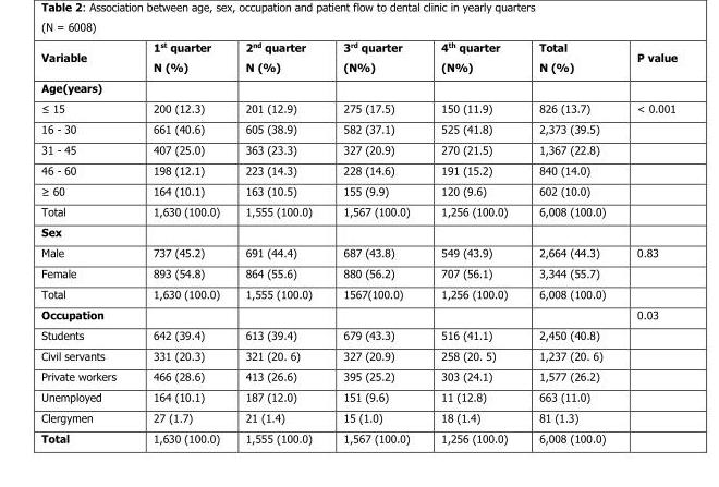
<table><thead><tr><td>Variable</td><td>1<sup>st</sup> quarter N (%)</td><td>2<sup>nd</sup> quarter N (%)</td><td>3<sup>rd</sup> quarter (N%)</td><td>4<sup>th</sup> quarter (N%)</td><td>Total N (%)</td><td>P value</td></tr></thead><tbody><tr><td colspan="7">Age(years)</td></tr><tr><td>≤ 15</td><td>200 (12.3)</td><td>201 (12.9)</td><td>275 (17.5)</td><td>150 (11.9)</td><td>826 (13.7)</td><td>&lt; 0.001</td></tr><tr><td>16 - 30</td><td>661 (40.6)</td><td>605 (38.9)</td><td>582 (37.1)</td><td>525 (41.8)</td><td>2,373 (39.5)</td><td></td></tr><tr><td>31 - 45</td><td>407 (25.0)</td><td>363 (23.3)</td><td>327 (20.9)</td><td>270 (21.5)</td><td>1,367 (22.8)</td><td></td></tr><tr><td>46 - 60</td><td>198 (12.1)</td><td>223 (14.3)</td><td>228 (14.6)</td><td>191 (15.2)</td><td>840 (14.0)</td><td></td></tr><tr><td>≥ 60</td><td>164 (10.1)</td><td>163 (10.5)</td><td>155 (9.9)</td><td>120 (9.6)</td><td>602 (10.0)</td><td></td></tr><tr><td>Total</td><td>1,630 (100.0)</td><td>1,555 (100.0)</td><td>1,567 (100.0)</td><td>1,256 (100.0)</td><td>6,008 (100.0)</td><td></td></tr><tr><td colspan="7">Sex</td></tr><tr><td>Male</td><td>737 (45.2)</td><td>691 (44.4)</td><td>687 (43.8)</td><td>549 (43.9)</td><td>2,664 (44.3)</td><td>0.83</td></tr><tr><td>Female</td><td>893 (54.8)</td><td>864 (55.6)</td><td>880 (56.2)</td><td>707 (56.1)</td><td>3,344 (55.7)</td><td></td></tr><tr><td>Total</td><td>1,630 (100.0)</td><td>1,555 (100.0)</td><td>1567(100.0)</td><td>1,256 (100.0)</td><td>6,008 (100.0)</td><td></td></tr><tr><td>Occupation</td><td></td><td></td><td></td><td></td><td></td><td>0.03</td></tr><tr><td>Students</td><td>642 (39.4)</td><td>613 (39.4)</td><td>679 (43.3)</td><td>516 (41.1)</td><td>2,450 (40.8)</td><td></td></tr><tr><td>Civil servants</td><td>331 (20.3)</td><td>321 (20. 6)</td><td>327 (20.9)</td><td>258 (20. 5)</td><td>1,237 (20. 6)</td><td></td></tr><tr><td>Private workers</td><td>466 (28.6)</td><td>413 (26.6)</td><td>395 (25.2)</td><td>303 (24.1)</td><td>1,577 (26.2)</td><td></td></tr><tr><td>Unemployed</td><td>164 (10.1)</td><td>187 (12.0)</td><td>151 (9.6)</td><td>11 (12.8)</td><td>663 (11.0)</td><td></td></tr><tr><td>Clergymen</td><td>27 (1.7)</td><td>21 (1.4)</td><td>15 (1.0)</td><td>18 (1.4)</td><td>81 (1.3)</td><td></td></tr><tr><td>Total</td><td>1,630 (100.0)</td><td>1,555 (100.0)</td><td>1,567 (100.0)</td><td>1,256 (100.0)</td><td>6,008 (100.0)</td><td></td></tr></tbody></table>